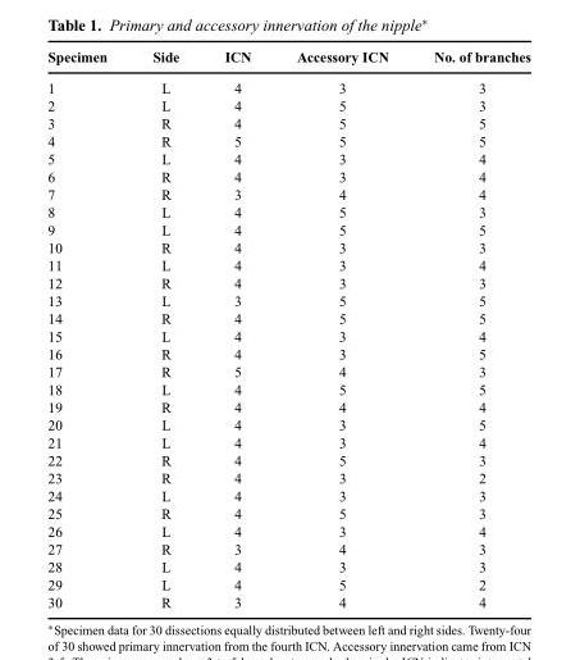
<table><thead><tr><td>Specimen</td><td>Side</td><td>ICN</td><td>Accessory ICN</td><td>No. of branches</td></tr></thead><tbody><tr><td>1</td><td>L</td><td>4</td><td>3</td><td>3</td></tr><tr><td>2</td><td>L</td><td>4</td><td>5</td><td>3</td></tr><tr><td>3</td><td>R</td><td>4</td><td>5</td><td>5</td></tr><tr><td>4</td><td>R</td><td>5</td><td>5</td><td>5</td></tr><tr><td>5</td><td>L</td><td>4</td><td>3</td><td>4</td></tr><tr><td>6</td><td>R</td><td>4</td><td>3</td><td>4</td></tr><tr><td>7</td><td>R</td><td>3</td><td>4</td><td>4</td></tr><tr><td>8</td><td>L</td><td>4</td><td>5</td><td>3</td></tr><tr><td>9</td><td>L</td><td>4</td><td>5</td><td>5</td></tr><tr><td>10</td><td>R</td><td>4</td><td>3</td><td>3</td></tr><tr><td>11</td><td>L</td><td>4</td><td>3</td><td>4</td></tr><tr><td>12</td><td>R</td><td>4</td><td>3</td><td>3</td></tr><tr><td>13</td><td>L</td><td>3</td><td>5</td><td>5</td></tr><tr><td>14</td><td>R</td><td>4</td><td>5</td><td>5</td></tr><tr><td>15</td><td>L</td><td>4</td><td>3</td><td>4</td></tr><tr><td>16</td><td>R</td><td>4</td><td>3</td><td>5</td></tr><tr><td>17</td><td>R</td><td>5</td><td>4</td><td>3</td></tr><tr><td>18</td><td>L</td><td>4</td><td>5</td><td>5</td></tr><tr><td>19</td><td>R</td><td>4</td><td>4</td><td>4</td></tr><tr><td>20</td><td>L</td><td>4</td><td>3</td><td>5</td></tr><tr><td>21</td><td>L</td><td>4</td><td>3</td><td>4</td></tr><tr><td>22</td><td>R</td><td>4</td><td>5</td><td>3</td></tr><tr><td>23</td><td>R</td><td>4</td><td>3</td><td>2</td></tr><tr><td>24</td><td>L</td><td>4</td><td>3</td><td>3</td></tr><tr><td>25</td><td>R</td><td>4</td><td>5</td><td>3</td></tr><tr><td>26</td><td>L</td><td>4</td><td>3</td><td>4</td></tr><tr><td>27</td><td>R</td><td>3</td><td>4</td><td>3</td></tr><tr><td>28</td><td>L</td><td>4</td><td>3</td><td>3</td></tr><tr><td>29</td><td>L</td><td>4</td><td>5</td><td>2</td></tr><tr><td>30</td><td>R</td><td>3</td><td>4</td><td>4</td></tr></tbody></table>